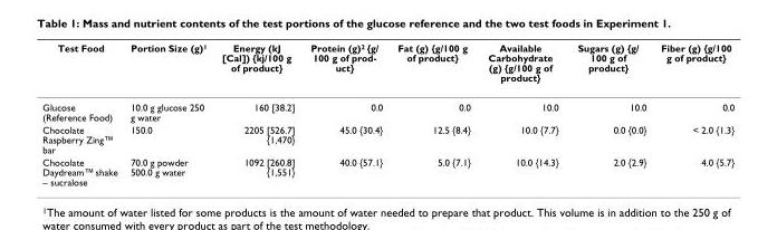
<table><thead><tr><td>Test Food</td><td>Portion Size (g)<sup>1</sup></td><td>Energy (kJ [Cal]) {kj/100 g of product}</td><td>Protein (g)2 {g/ 100 g of prod- uct}</td><td>Fat (g) {g/100 g of product}</td><td>Available Carbohydrate (g) {g/100 g of product}</td><td>Sugars (g) {g/ 100 g of product}</td><td>Fiber (g) {g/100 g of product}</td></tr></thead><tbody><tr><td>Glucose (Reference Food)</td><td>10.0 g glucose 250 g water</td><td>160 [38.2]</td><td>0.0</td><td>0.0</td><td>10.0</td><td>10.0</td><td>0.0</td></tr><tr><td>Chocolate Raspberry Zing™ bar</td><td>150.0</td><td>2205 [526.7] {1,470}</td><td>45.0 {30.4}</td><td>12.5 {8.4}</td><td>10.0 {7.7}</td><td>0.0 {0.0}</td><td>&lt; 2.0 {1.3}</td></tr><tr><td>Chocolate Daydream™ shake – sucralose</td><td>70.0 g powder 500.0 g water</td><td>1092 [260.8] {1,551}</td><td>40.0 {57.1}</td><td>5.0 {7.1}</td><td>10.0 {14.3}</td><td>2.0 {2.9}</td><td>4.0 {5.7}</td></tr></tbody></table>